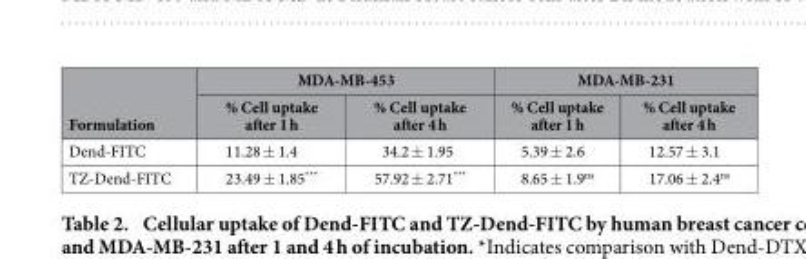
<table><thead><tr><td rowspan="2">Formulation</td><td colspan="2">MDA-MB-453</td><td colspan="2">MDA-MB-231</td></tr><tr><td>% Cell uptake after 1 h</td><td>% Cell uptake after 4 h</td><td>% Cell uptake after 1 h</td><td>% Cell uptake after 4 h</td></tr></thead><tbody><tr><td>Dend-FITC</td><td>11.28 ± 1.4</td><td>34.2 ± 1.95</td><td>5.39 ± 2.6</td><td>12.57 ± 3.1</td></tr><tr><td>TZ-Dend-FITC</td><td>23.49 ± 1.85***</td><td>57.92 ± 2.71***</td><td>8.65 ± 1.9<sup>ns</sup></td><td>17.06 ± 2.4<sup>ns</sup></td></tr></tbody></table>